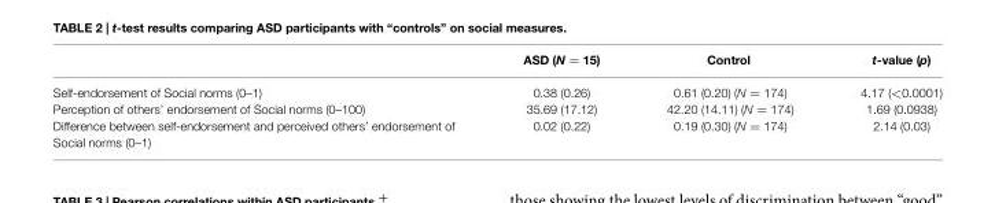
<table><thead><tr><td></td><td>ASD (N = 15)</td><td>Control</td><td>t-value (p)</td></tr></thead><tbody><tr><td>Self-endorsement of Social norms (0–1)</td><td>0.38 (0.26)</td><td>0.61 (0.20) (N = 174)</td><td>4.17 (&lt;0.0001)</td></tr><tr><td>Perception of others’ endorsement of Social norms (0–100)</td><td>35.69 (17.12)</td><td>42.20 (14.11) (N = 174)</td><td>1.69 (0.0938)</td></tr><tr><td>Difference between self-endorsement and perceived others’ endorsement of Social norms (0–1)</td><td>0.02 (0.22)</td><td>0.19 (0.30) (N = 174)</td><td>2.14 (0.03)</td></tr></tbody></table>